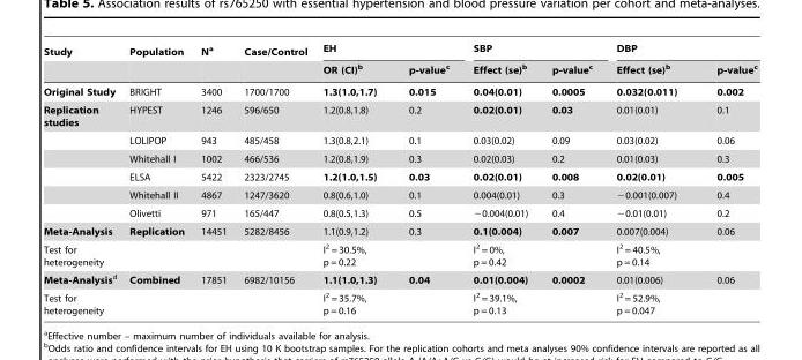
<table><thead><tr><td rowspan="2">Study</td><td rowspan="2">Population</td><td rowspan="2">N<sup>a</sup></td><td rowspan="2">Case/Control</td><td colspan="2">EH</td><td colspan="2">SBP</td><td colspan="2">DBP</td></tr><tr><td>OR (CI)<sup>b</sup></td><td>p-value<sup>c</sup></td><td>Effect (se)<sup>b</sup></td><td>p-value<sup>c</sup></td><td>Effect (se)<sup>b</sup></td><td>p-value<sup>c</sup></td></tr></thead><tbody><tr><td>Original Study</td><td>BRIGHT</td><td>3400</td><td>1700/1700</td><td>1.3(1.0,1.7)</td><td>0.015</td><td>0.04(0.01)</td><td>0.0005</td><td>0.032(0.011)</td><td>0.002</td></tr><tr><td rowspan="6">Replication studies</td><td>HYPEST</td><td>1246</td><td>596/650</td><td>1.2(0.8,1.8)</td><td>0.2</td><td>0.02(0.01)</td><td>0.03</td><td>0.01(0.01)</td><td>0.1</td></tr><tr><td>LOLIPOP</td><td>943</td><td>485/458</td><td>1.3(0.8,2.1)</td><td>0.1</td><td>0.03(0.02)</td><td>0.09</td><td>0.03(0.02)</td><td>0.06</td></tr><tr><td>Whitehall I</td><td>1002</td><td>466/536</td><td>1.2(0.8,1.9)</td><td>0.3</td><td>0.02(0.03)</td><td>0.2</td><td>0.01(0.03)</td><td>0.3</td></tr><tr><td>ELSA</td><td>5422</td><td>2323/2745</td><td>1.2(1.0,1.5)</td><td>0.03</td><td>0.02(0.01)</td><td>0.008</td><td>0.02(0.01)</td><td>0.005</td></tr><tr><td>Whitehall II</td><td>4867</td><td>1247/3620</td><td>0.8(0.6,1.0)</td><td>0.1</td><td>0.004(0.01)</td><td>0.3</td><td>−0.001(0.007)</td><td>0.4</td></tr><tr><td>Olivetti</td><td>971</td><td>165/447</td><td>0.8(0.5,1.3)</td><td>0.5</td><td>−0.004(0.01)</td><td>0.4</td><td>−0.01(0.01)</td><td>0.2</td></tr><tr><td>Meta-Analysis</td><td>Replication</td><td>14451</td><td>5282/8456</td><td>1.1(0.9,1.2)</td><td>0.3</td><td>0.1(0.004)</td><td>0.007</td><td>0.007(0.004)</td><td>0.06</td></tr><tr><td>Test for heterogeneity</td><td></td><td></td><td></td><td>I<sup>2</sup> = 30.5%, p = 0.22</td><td></td><td>I<sup>2</sup> = 0%, p = 0.42</td><td></td><td>I<sup>2</sup> = 40.5%, p = 0.14</td><td></td></tr><tr><td>Meta-Analysisd</td><td>Combined</td><td>17851</td><td>6982/10156</td><td>1.1(1.0,1.3)</td><td>0.04</td><td>0.01(0.004)</td><td>0.0002</td><td>0.01(0.006)</td><td>0.06</td></tr><tr><td>Test for heterogeneity</td><td></td><td></td><td></td><td>I<sup>2</sup> = 35.7%, p = 0.16</td><td></td><td>I<sup>2</sup> = 39.1%, p = 0.13</td><td></td><td>I<sup>2</sup> = 52.9%, p = 0.047</td><td></td></tr></tbody></table>